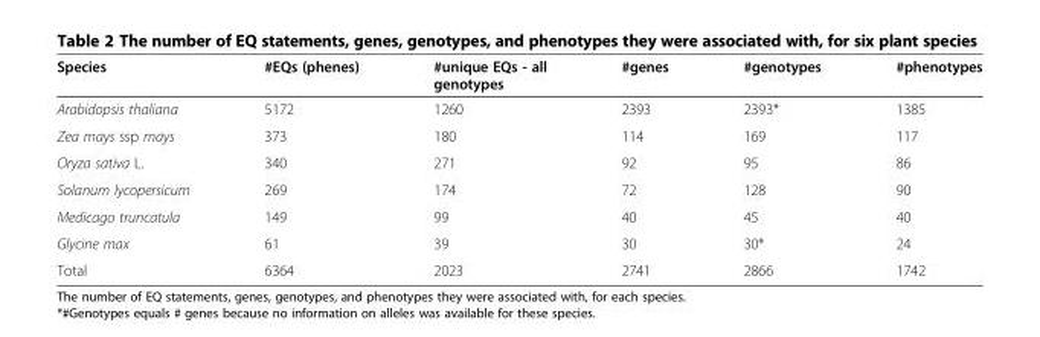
<table><thead><tr><td>Species</td><td>#EQs (phenes)</td><td>#unique EQs - all genotypes</td><td>#genes</td><td>#genotypes</td><td>#phenotypes</td></tr></thead><tbody><tr><td>Arabidopsis thaliana</td><td>5172</td><td>1260</td><td>2393</td><td>2393*</td><td>1385</td></tr><tr><td>Zea mays ssp mays</td><td>373</td><td>180</td><td>114</td><td>169</td><td>117</td></tr><tr><td>Oryza sativa L.</td><td>340</td><td>271</td><td>92</td><td>95</td><td>86</td></tr><tr><td>Solanum lycopersicum</td><td>269</td><td>174</td><td>72</td><td>128</td><td>90</td></tr><tr><td>Medicago truncatula</td><td>149</td><td>99</td><td>40</td><td>45</td><td>40</td></tr><tr><td>Glycine max</td><td>61</td><td>39</td><td>30</td><td>30*</td><td>24</td></tr><tr><td>Total</td><td>6364</td><td>2023</td><td>2741</td><td>2866</td><td>1742</td></tr></tbody></table>